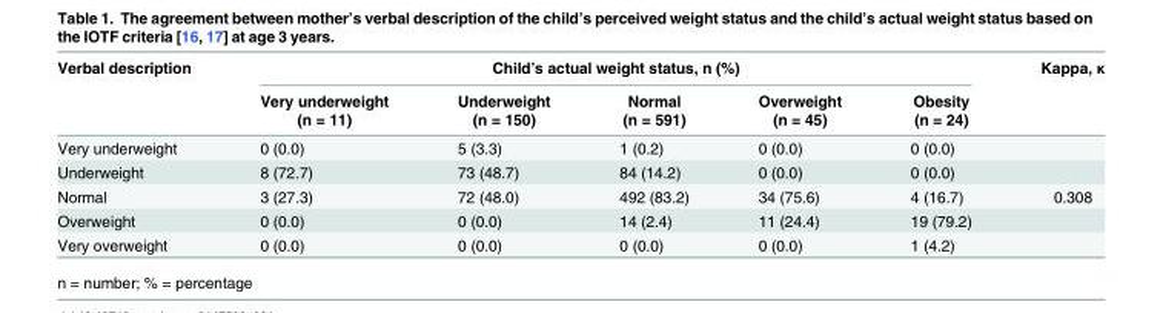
<table><thead><tr><td rowspan="3">Verbal description</td><td colspan="5">Child’s actual weight status, n (%)</td><td rowspan="3">Kappa, κ</td></tr><tr><td rowspan="2">Very underweight (n = 11)</td><td rowspan="2">Underweight (n = 150)</td><td rowspan="2">Normal (n = 591)</td><td rowspan="2">Overweight (n = 45)</td><td rowspan="2">Obesity (n = 24)</td></tr><tr></tr></thead><tbody><tr><td>Very underweight</td><td>0 (0.0)</td><td>5 (3.3)</td><td>1 (0.2)</td><td>0 (0.0)</td><td>0 (0.0)</td><td></td></tr><tr><td>Underweight</td><td>8 (72.7)</td><td>73 (48.7)</td><td>84 (14.2)</td><td>0 (0.0)</td><td>0 (0.0)</td><td></td></tr><tr><td>Normal</td><td>3 (27.3)</td><td>72 (48.0)</td><td>492 (83.2)</td><td>34 (75.6)</td><td>4 (16.7)</td><td>0.308</td></tr><tr><td>Overweight</td><td>0 (0.0)</td><td>0 (0.0)</td><td>14 (2.4)</td><td>11 (24.4)</td><td>19 (79.2)</td><td></td></tr><tr><td>Very overweight</td><td>0 (0.0)</td><td>0 (0.0)</td><td>0 (0.0)</td><td>0 (0.0)</td><td>1 (4.2)</td><td></td></tr></tbody></table>